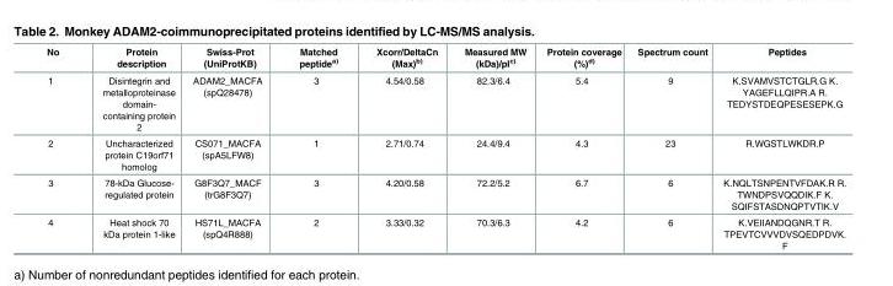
<table><thead><tr><td>No</td><td>Protein description</td><td>Swiss-Prot (UniProtKB)</td><td>Matched peptide<sup>a)</sup></td><td>Xcorr/DeltaCn (Max)<sup>b)</sup></td><td>Measured MW (kDa)/pI<sup>c)</sup></td><td>Protein coverage (%)<sup>d)</sup></td><td>Spectrum count</td><td>Peptides</td></tr></thead><tbody><tr><td>1</td><td>Disintegrin and metalloproteinase domain- containing protein 2</td><td>ADAM2_MACFA (spQ28478)</td><td>3</td><td>4.54/0.58</td><td>82.3/6.4</td><td>5.4</td><td>9</td><td>K.SVAMVSTCTGLR.G K. YAGEFLLQIPR.A R. TEDYSTDEQPESESEPK.G</td></tr><tr><td>2</td><td>Uncharacterized protein C19orf71 homolog</td><td>CS071_MACFA (spA5LFW8)</td><td>1</td><td>2.71/0.74</td><td>24.4/9.4</td><td>4.3</td><td>23</td><td>R.WGSTLWKDR.P</td></tr><tr><td>3</td><td>78-kDa Glucose- regulated protein</td><td>G8F3Q7_MACF (trG8F3Q7)</td><td>3</td><td>4.20/0.58</td><td>72.2/5.2</td><td>6.7</td><td>6</td><td>K.NQLTSNPENTVFDAK.R R. TWNDPSVQQDIK.F K. SQIFSTASDNQPTVTIK.V</td></tr><tr><td>4</td><td>Heat shock 70 kDa protein 1-like</td><td>HS71L_MACFA (spQ4R888)</td><td>2</td><td>3.33/0.32</td><td>70.3/6.3</td><td>4.2</td><td>6</td><td>K.VEIIANDQGNR.T R. TPEVTCVVVDVSQEDPDVK.</td></tr></tbody></table>